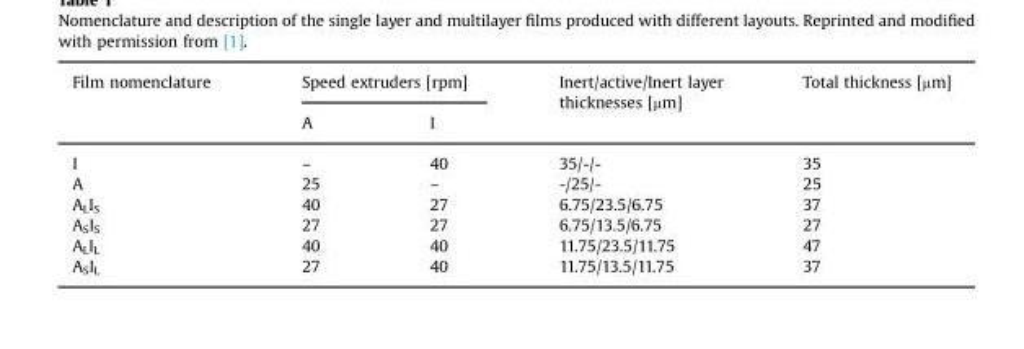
<table><thead><tr><td rowspan="2">Film nomenclature</td><td colspan="2">Speed extruders [rpm]</td><td rowspan="2">Inert/active/Inert layer thicknesses [µm]</td><td rowspan="2">Total thickness [µm]</td></tr><tr><td>A</td><td>I</td></tr></thead><tbody><tr><td>I</td><td>–</td><td>40</td><td>35/-/-</td><td>35</td></tr><tr><td>A</td><td>25</td><td>–</td><td>-/25/-</td><td>25</td></tr><tr><td>A<sub>L</sub>I<sub>S</sub></td><td>40</td><td>27</td><td>6.75/23.5/6.75</td><td>37</td></tr><tr><td>A<sub>S</sub>I<sub>S</sub></td><td>27</td><td>27</td><td>6.75/13.5/6.75</td><td>27</td></tr><tr><td>A<sub>L</sub>I<sub>L</sub></td><td>40</td><td>40</td><td>11.75/23.5/11.75</td><td>47</td></tr><tr><td>A<sub>S</sub>I<sub>L</sub></td><td>27</td><td>40</td><td>11.75/13.5/11.75</td><td>37</td></tr></tbody></table>